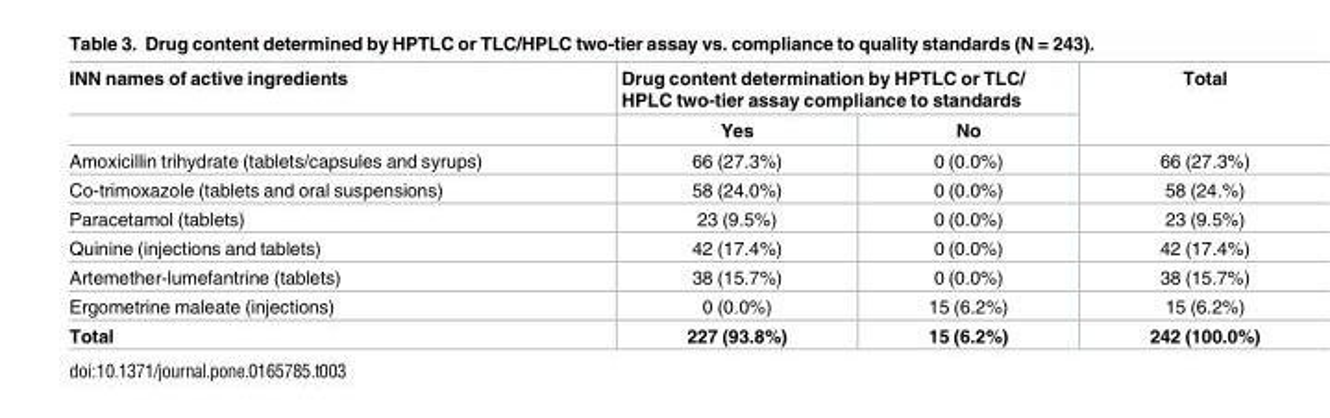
<table><thead><tr><td rowspan="2">INN names of active ingredients</td><td colspan="2">Drug content determination by HPTLC or TLC/ HPLC two-tier assay compliance to standards</td><td rowspan="2">Total</td></tr><tr><td>Yes</td><td>No</td></tr></thead><tbody><tr><td>Amoxicillin trihydrate (tablets/capsules and syrups)</td><td>66 (27.3%)</td><td>0 (0.0%)</td><td>66 (27.3%)</td></tr><tr><td>Co-trimoxazole (tablets and oral suspensions)</td><td>58 (24.0%)</td><td>0 (0.0%)</td><td>58 (24.%)</td></tr><tr><td>Paracetamol (tablets)</td><td>23 (9.5%)</td><td>0 (0.0%)</td><td>23 (9.5%)</td></tr><tr><td>Quinine (injections and tablets)</td><td>42 (17.4%)</td><td>0 (0.0%)</td><td>42 (17.4%)</td></tr><tr><td>Artemether-lumefantrine (tablets)</td><td>38 (15.7%)</td><td>0 (0.0%)</td><td>38 (15.7%)</td></tr><tr><td>Ergometrine maleate (injections)</td><td>0 (0.0%)</td><td>15 (6.2%)</td><td>15 (6.2%)</td></tr><tr><td>Total</td><td>227 (93.8%)</td><td>15 (6.2%)</td><td>242 (100.0%)</td></tr></tbody></table>